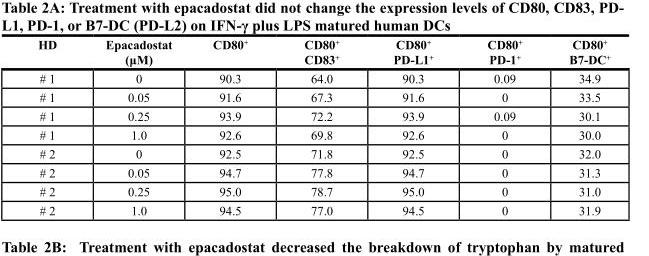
<table><thead><tr><td>HD</td><td>Epacadostat (μM)</td><td>CD80<sup>+</sup></td><td>CD80<sup>+</sup> CD83<sup>+</sup></td><td>CD80<sup>+</sup> PD-L1<sup>+</sup></td><td>CD80<sup>+</sup> PD-1<sup>+</sup></td><td>CD80<sup>+</sup> B7-DC<sup>+</sup></td></tr></thead><tbody><tr><td># 1</td><td>0</td><td>90.3</td><td>64.0</td><td>90.3</td><td>0.09</td><td>34.9</td></tr><tr><td># 1</td><td>0.05</td><td>91.6</td><td>67.3</td><td>91.6</td><td>0</td><td>33.5</td></tr><tr><td># 1</td><td>0.25</td><td>93.9</td><td>72.2</td><td>93.9</td><td>0.09</td><td>30.1</td></tr><tr><td># 1</td><td>1.0</td><td>92.6</td><td>69.8</td><td>92.6</td><td>0</td><td>30.0</td></tr><tr><td># 2</td><td>0</td><td>92.5</td><td>71.8</td><td>92.5</td><td>0</td><td>32.0</td></tr><tr><td># 2</td><td>0.05</td><td>94.7</td><td>77.8</td><td>94.7</td><td>0</td><td>31.3</td></tr><tr><td># 2</td><td>0.25</td><td>95.0</td><td>78.7</td><td>95.0</td><td>0</td><td>31.0</td></tr><tr><td># 2</td><td>1.0</td><td>94.5</td><td>77.0</td><td>94.5</td><td>0</td><td>31.9</td></tr></tbody></table>